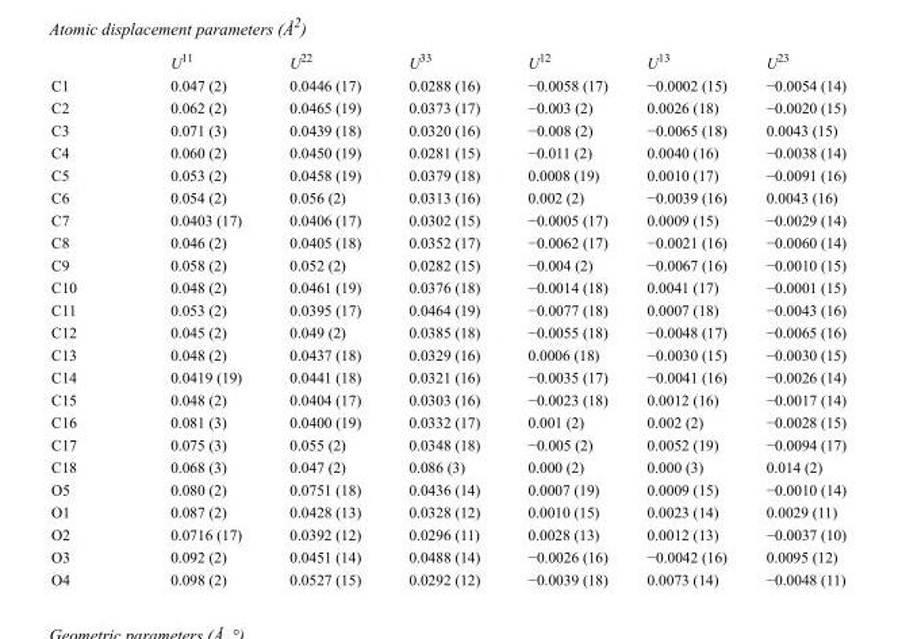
<table><thead><tr><td></td><td>U<sup>11</sup></td><td>U<sup>22</sup></td><td>U<sup>33</sup></td><td>U<sup>12</sup></td><td>U<sup>13</sup></td><td>U<sup>23</sup></td></tr></thead><tbody><tr><td>C1</td><td>0.047 (2)</td><td>0.0446 (17)</td><td>0.0288 (16)</td><td>−0.0058 (17)</td><td>−0.0002 (15)</td><td>−0.0054 (14)</td></tr><tr><td>C2</td><td>0.062 (2)</td><td>0.0465 (19)</td><td>0.0373 (17)</td><td>−0.003 (2)</td><td>0.0026 (18)</td><td>−0.0020 (15)</td></tr><tr><td>C3</td><td>0.071 (3)</td><td>0.0439 (18)</td><td>0.0320 (16)</td><td>−0.008 (2)</td><td>−0.0065 (18)</td><td>0.0043 (15)</td></tr><tr><td>C4</td><td>0.060 (2)</td><td>0.0450 (19)</td><td>0.0281 (15)</td><td>−0.011 (2)</td><td>0.0040 (16)</td><td>−0.0038 (14)</td></tr><tr><td>C5</td><td>0.053 (2)</td><td>0.0458 (19)</td><td>0.0379 (18)</td><td>0.0008 (19)</td><td>0.0010 (17)</td><td>−0.0091 (16)</td></tr><tr><td>C6</td><td>0.054 (2)</td><td>0.056 (2)</td><td>0.0313 (16)</td><td>0.002 (2)</td><td>−0.0039 (16)</td><td>0.0043 (16)</td></tr><tr><td>C7</td><td>0.0403 (17)</td><td>0.0406 (17)</td><td>0.0302 (15)</td><td>−0.0005 (17)</td><td>0.0009 (15)</td><td>−0.0029 (14)</td></tr><tr><td>C8</td><td>0.046 (2)</td><td>0.0405 (18)</td><td>0.0352 (17)</td><td>−0.0062 (17)</td><td>−0.0021 (16)</td><td>−0.0060 (14)</td></tr><tr><td>C9</td><td>0.058 (2)</td><td>0.052 (2)</td><td>0.0282 (15)</td><td>−0.004 (2)</td><td>−0.0067 (16)</td><td>−0.0010 (15)</td></tr><tr><td>C10</td><td>0.048 (2)</td><td>0.0461 (19)</td><td>0.0376 (18)</td><td>−0.0014 (18)</td><td>0.0041 (17)</td><td>−0.0001 (15)</td></tr><tr><td>C11</td><td>0.053 (2)</td><td>0.0395 (17)</td><td>0.0464 (19)</td><td>−0.0077 (18)</td><td>0.0007 (18)</td><td>−0.0043 (16)</td></tr><tr><td>C12</td><td>0.045 (2)</td><td>0.049 (2)</td><td>0.0385 (18)</td><td>−0.0055 (18)</td><td>−0.0048 (17)</td><td>−0.0065 (16)</td></tr><tr><td>C13</td><td>0.048 (2)</td><td>0.0437 (18)</td><td>0.0329 (16)</td><td>0.0006 (18)</td><td>−0.0030 (15)</td><td>−0.0030 (15)</td></tr><tr><td>C14</td><td>0.0419 (19)</td><td>0.0441 (18)</td><td>0.0321 (16)</td><td>−0.0035 (17)</td><td>−0.0041 (16)</td><td>−0.0026 (14)</td></tr><tr><td>C15</td><td>0.048 (2)</td><td>0.0404 (17)</td><td>0.0303 (16)</td><td>−0.0023 (18)</td><td>0.0012 (16)</td><td>−0.0017 (14)</td></tr><tr><td>C16</td><td>0.081 (3)</td><td>0.0400 (19)</td><td>0.0332 (17)</td><td>0.001 (2)</td><td>0.002 (2)</td><td>−0.0028 (15)</td></tr><tr><td>C17</td><td>0.075 (3)</td><td>0.055 (2)</td><td>0.0348 (18)</td><td>−0.005 (2)</td><td>0.0052 (19)</td><td>−0.0094 (17)</td></tr><tr><td>C18</td><td>0.068 (3)</td><td>0.047 (2)</td><td>0.086 (3)</td><td>0.000 (2)</td><td>0.000 (3)</td><td>0.014 (2)</td></tr><tr><td>O5</td><td>0.080 (2)</td><td>0.0751 (18)</td><td>0.0436 (14)</td><td>0.0007 (19)</td><td>0.0009 (15)</td><td>−0.0010 (14)</td></tr><tr><td>O1</td><td>0.087 (2)</td><td>0.0428 (13)</td><td>0.0328 (12)</td><td>0.0010 (15)</td><td>0.0023 (14)</td><td>0.0029 (11)</td></tr><tr><td>O2</td><td>0.0716 (17)</td><td>0.0392 (12)</td><td>0.0296 (11)</td><td>0.0028 (13)</td><td>0.0012 (13)</td><td>−0.0037 (10)</td></tr><tr><td>O3</td><td>0.092 (2)</td><td>0.0451 (14)</td><td>0.0488 (14)</td><td>−0.0026 (16)</td><td>−0.0042 (16)</td><td>0.0095 (12)</td></tr><tr><td>O4</td><td>0.098 (2)</td><td>0.0527 (15)</td><td>0.0292 (12)</td><td>−0.0039 (18)</td><td>0.0073 (14)</td><td>−0.0048 (11)</td></tr></tbody></table>